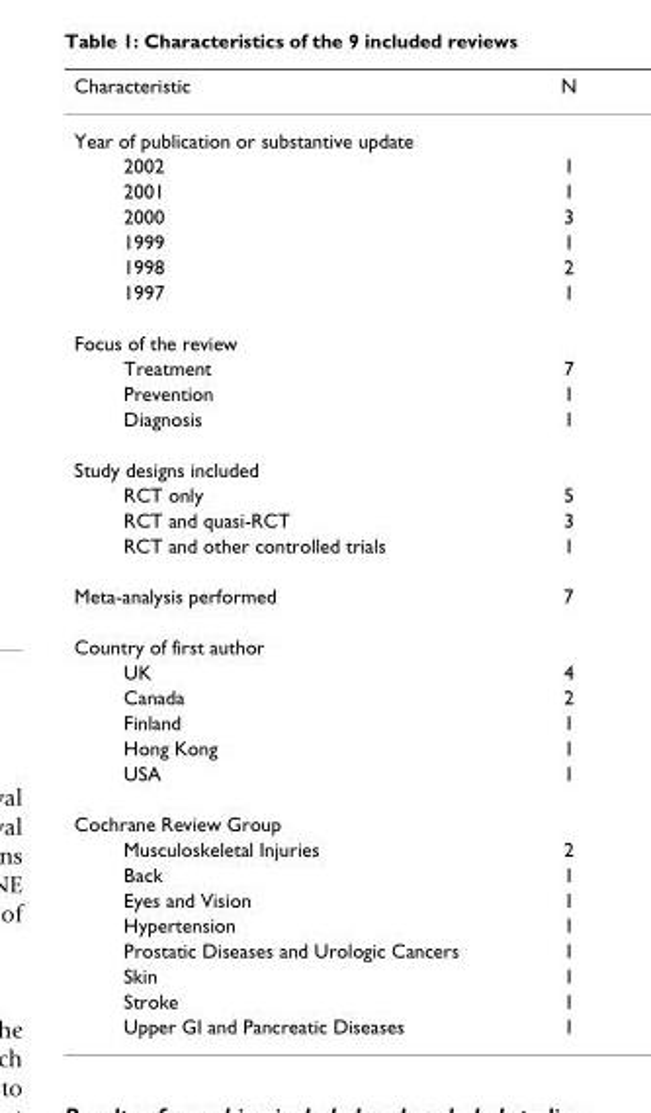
<table><thead><tr><td>Characteristic</td><td>N</td></tr></thead><tbody><tr><td colspan="2">Year of publication or substantive update</td></tr><tr><td>2002</td><td>1</td></tr><tr><td>2001</td><td>1</td></tr><tr><td>2000</td><td>3</td></tr><tr><td>1999</td><td>1</td></tr><tr><td>1998</td><td>2</td></tr><tr><td>1997</td><td>1</td></tr><tr><td colspan="2">Focus of the review</td></tr><tr><td>Treatment</td><td>7</td></tr><tr><td>Prevention</td><td>1</td></tr><tr><td>Diagnosis</td><td>1</td></tr><tr><td colspan="2">Study designs included</td></tr><tr><td>RCT only</td><td>5</td></tr><tr><td>RCT and quasi-RCT</td><td>3</td></tr><tr><td>RCT and other controlled trials</td><td>1</td></tr><tr><td>Meta-analysis performed</td><td>7</td></tr><tr><td colspan="2">Country of first author</td></tr><tr><td>UK</td><td>4</td></tr><tr><td>Canada</td><td>2</td></tr><tr><td>Finland</td><td>1</td></tr><tr><td>Hong Kong</td><td>1</td></tr><tr><td>USA</td><td>1</td></tr><tr><td colspan="2">Cochrane Review Group</td></tr><tr><td>Musculoskeletal Injuries</td><td>2</td></tr><tr><td>Back</td><td>1</td></tr><tr><td>Eyes and Vision</td><td>1</td></tr><tr><td>Hypertension</td><td>1</td></tr><tr><td>Prostatic Diseases and Urologic Cancers</td><td>1</td></tr><tr><td>Skin</td><td>1</td></tr><tr><td>Stroke</td><td>1</td></tr><tr><td>Upper GI and Pancreatic Diseases</td><td>1</td></tr></tbody></table>